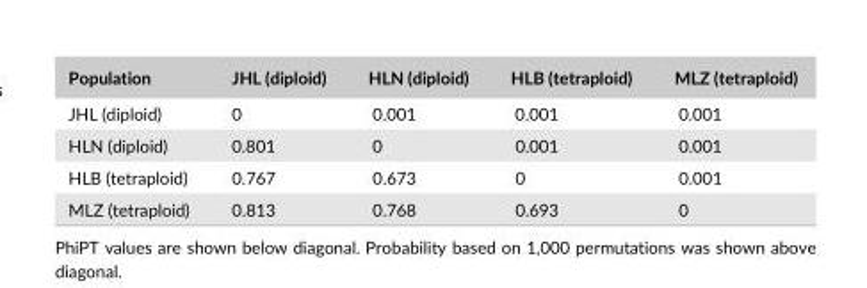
<table><thead><tr><td>Population</td><td>JHL (diploid)</td><td>HLN (diploid)</td><td>HLB (tetraploid)</td><td>MLZ (tetraploid)</td></tr></thead><tbody><tr><td>JHL (diploid)</td><td>0</td><td>0.001</td><td>0.001</td><td>0.001</td></tr><tr><td>HLN (diploid)</td><td>0.801</td><td>0</td><td>0.001</td><td>0.001</td></tr><tr><td>HLB (tetraploid)</td><td>0.767</td><td>0.673</td><td>0</td><td>0.001</td></tr><tr><td>MLZ (tetraploid)</td><td>0.813</td><td>0.768</td><td>0.693</td><td>0</td></tr></tbody></table>